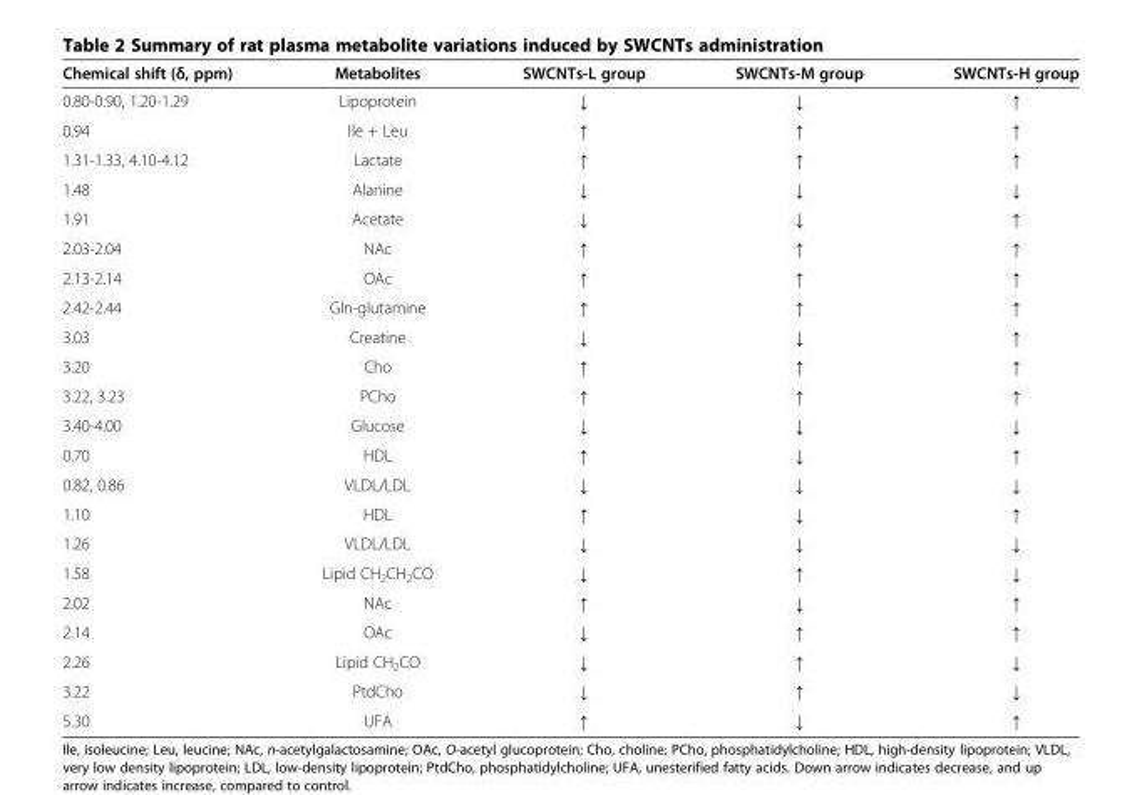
<table><thead><tr><td>Chemical shift (δ, ppm)</td><td>Metabolites</td><td>SWCNTs-L group</td><td>SWCNTs-M group</td><td>SWCNTs-H group</td></tr></thead><tbody><tr><td>0.80-0.90, 1.20-1.29</td><td>Lipoprotein</td><td>↓</td><td>↓</td><td>↑</td></tr><tr><td>0.94</td><td>Ile + Leu</td><td>↑</td><td>↑</td><td>↑</td></tr><tr><td>1.31-1.33, 4.10-4.12</td><td>Lactate</td><td>↑</td><td>↑</td><td>↑</td></tr><tr><td>1.48</td><td>Alanine</td><td>↓</td><td>↓</td><td>↓</td></tr><tr><td>1.91</td><td>Acetate</td><td>↓</td><td>↓</td><td>↑</td></tr><tr><td>2.03-2.04</td><td>NAc</td><td>↑</td><td>↑</td><td>↑</td></tr><tr><td>2.13-2.14</td><td>OAc</td><td>↑</td><td>↑</td><td>↑</td></tr><tr><td>2.42-2.44</td><td>Gln-glutamine</td><td>↑</td><td>↑</td><td>↑</td></tr><tr><td>3.03</td><td>Creatine</td><td>↓</td><td>↓</td><td>↑</td></tr><tr><td>3.20</td><td>Cho</td><td>↑</td><td>↑</td><td>↑</td></tr><tr><td>3.22, 3.23</td><td>PCho</td><td>↑</td><td>↑</td><td>↑</td></tr><tr><td>3.40-4.00</td><td>Glucose</td><td>↓</td><td>↓</td><td>↓</td></tr><tr><td>0.70</td><td>HDL</td><td>↑</td><td>↓</td><td>↑</td></tr><tr><td>0.82, 0.86</td><td>VLDL/LDL</td><td>↓</td><td>↓</td><td>↓</td></tr><tr><td>1.10</td><td>HDL</td><td>↑</td><td>↓</td><td>↑</td></tr><tr><td>1.26</td><td>VLDL/LDL</td><td>↓</td><td>↓</td><td>↓</td></tr><tr><td>1.58</td><td>Lipid CH<sub>2</sub>CH<sub>2</sub>CO</td><td>↓</td><td>↑</td><td>↓</td></tr><tr><td>2.02</td><td>NAc</td><td>↑</td><td>↓</td><td>↑</td></tr><tr><td>2.14</td><td>OAc</td><td>↓</td><td>↑</td><td>↑</td></tr><tr><td>2.26</td><td>Lipid CH<sub>2</sub>CO</td><td>↓</td><td>↑</td><td>↓</td></tr><tr><td>3.22</td><td>PtdCho</td><td>↓</td><td>↑</td><td>↓</td></tr><tr><td>5.30</td><td>UFA</td><td>↑</td><td>↓</td><td>↑</td></tr></tbody></table>